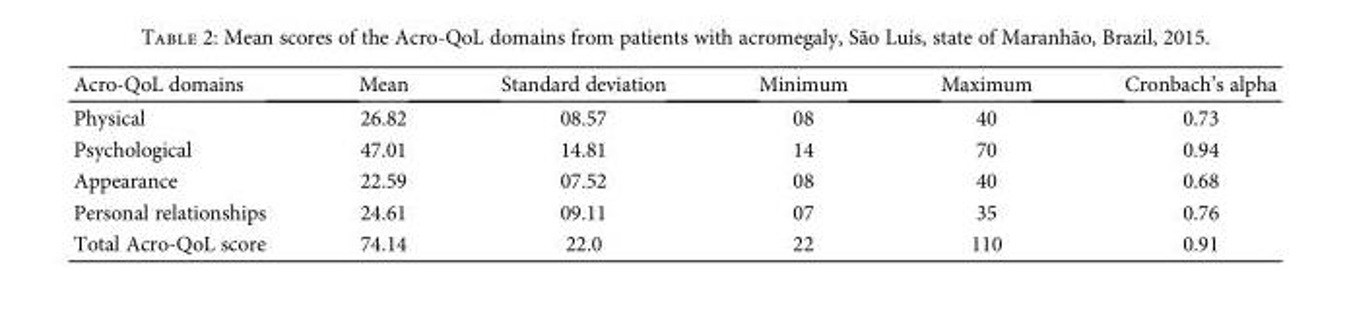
<table><thead><tr><td>Acro-QoL domains</td><td>Mean</td><td>Standard deviation</td><td>Minimum</td><td>Maximum</td><td>Cronbach’s alpha</td></tr></thead><tbody><tr><td>Physical</td><td>26.82</td><td>08.57</td><td>08</td><td>40</td><td>0.73</td></tr><tr><td>Psychological</td><td>47.01</td><td>14.81</td><td>14</td><td>70</td><td>0.94</td></tr><tr><td>Appearance</td><td>22.59</td><td>07.52</td><td>08</td><td>40</td><td>0.68</td></tr><tr><td>Personal relationships</td><td>24.61</td><td>09.11</td><td>07</td><td>35</td><td>0.76</td></tr><tr><td>Total Acro-QoL score</td><td>74.14</td><td>22.0</td><td>22</td><td>110</td><td>0.91</td></tr></tbody></table>